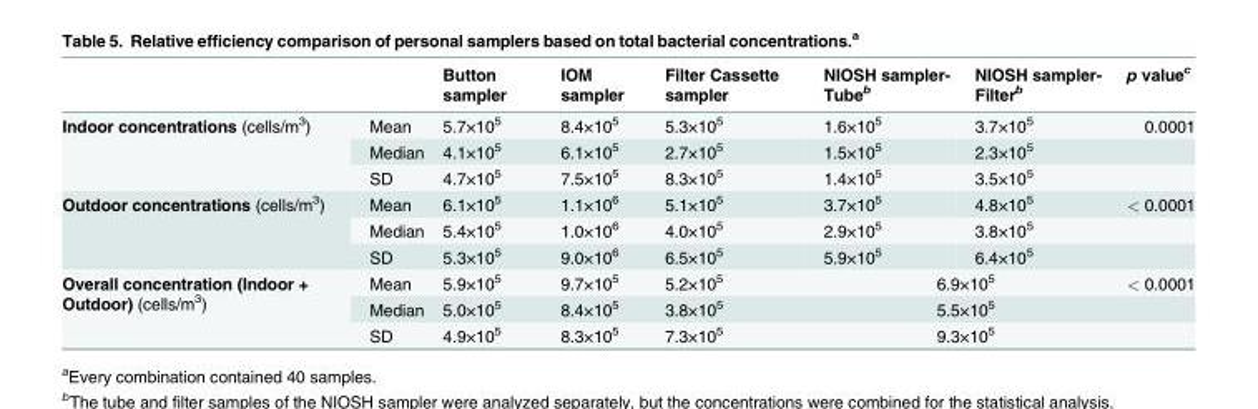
<table><thead><tr><td></td><td></td><td>Button sampler</td><td>IOM sampler</td><td>Filter Cassette sampler</td><td>NIOSH sampler- Tube<sup>b</sup></td><td>NIOSH sampler- Filter<sup>b</sup></td><td>p value<sup>c</sup></td></tr></thead><tbody><tr><td rowspan="3">Indoor concentrations (cells/m<sup>3</sup>)</td><td>Mean</td><td>5.7×10<sup>5</sup></td><td>8.4×10<sup>5</sup></td><td>5.3×10<sup>5</sup></td><td>1.6×10<sup>5</sup></td><td>3.7×10<sup>5</sup></td><td>0.0001</td></tr><tr><td>Median</td><td>4.1×10<sup>5</sup></td><td>6.1×10<sup>5</sup></td><td>2.7×10<sup>5</sup></td><td>1.5×10<sup>5</sup></td><td>2.3×10<sup>5</sup></td><td></td></tr><tr><td>SD</td><td>4.7×10<sup>5</sup></td><td>7.5×10<sup>5</sup></td><td>8.3×10<sup>5</sup></td><td>1.4×10<sup>5</sup></td><td>3.5×10<sup>5</sup></td><td></td></tr><tr><td rowspan="3">Outdoor concentrations (cells/m<sup>3</sup>)</td><td>Mean</td><td>6.1×10<sup>5</sup></td><td>1.1×10<sup>6</sup></td><td>5.1×10<sup>5</sup></td><td>3.7×10<sup>5</sup></td><td>4.8×10<sup>5</sup></td><td>&lt; 0.0001</td></tr><tr><td>Median</td><td>5.4×10<sup>5</sup></td><td>1.0×10<sup>6</sup></td><td>4.0×10<sup>5</sup></td><td>2.9×10<sup>5</sup></td><td>3.8×10<sup>5</sup></td><td></td></tr><tr><td>SD</td><td>5.3×10<sup>5</sup></td><td>9.0×10<sup>6</sup></td><td>6.5×10<sup>5</sup></td><td>5.9×10<sup>5</sup></td><td>6.4×10<sup>5</sup></td><td></td></tr><tr><td rowspan="3">Overall concentration (Indoor + Outdoor) (cells/m<sup>3</sup>)</td><td>Mean</td><td>5.9×10<sup>5</sup></td><td>9.7×10<sup>5</sup></td><td>5.2×10<sup>5</sup></td><td colspan="2">6.9×10<sup>5</sup></td><td>&lt; 0.0001</td></tr><tr><td>Median</td><td>5.0×10<sup>5</sup></td><td>8.4×10<sup>5</sup></td><td>3.8×10<sup>5</sup></td><td colspan="2">5.5×10<sup>5</sup></td><td></td></tr><tr><td>SD</td><td>4.9×10<sup>5</sup></td><td>8.3×10<sup>5</sup></td><td>7.3×10<sup>5</sup></td><td colspan="2">9.3×10<sup>5</sup></td><td></td></tr></tbody></table>